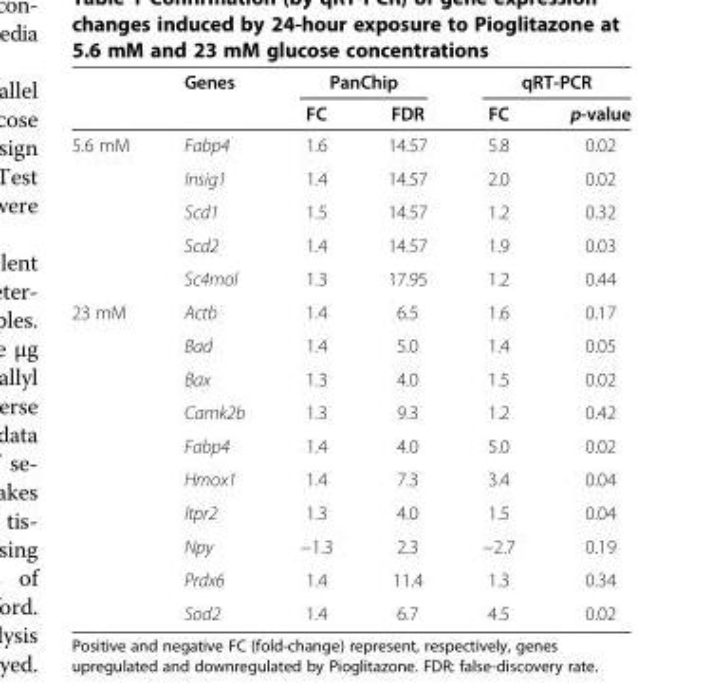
<table><thead><tr><td rowspan="2"></td><td rowspan="2">Genes</td><td colspan="2">PanChip</td><td colspan="2">qRT-PCR</td></tr><tr><td>FC</td><td>FDR</td><td>FC</td><td>p-value</td></tr></thead><tbody><tr><td rowspan="5">5.6 mM</td><td>Fabp4</td><td>1.6</td><td>14.57</td><td>5.8</td><td>0.02</td></tr><tr><td>Insig1</td><td>1.4</td><td>14.57</td><td>2.0</td><td>0.02</td></tr><tr><td>Scd1</td><td>1.5</td><td>14.57</td><td>1.2</td><td>0.32</td></tr><tr><td>Scd2</td><td>1.4</td><td>14.57</td><td>1.9</td><td>0.03</td></tr><tr><td>Sc4mol</td><td>1.3</td><td>17.95</td><td>1.2</td><td>0.44</td></tr><tr><td rowspan="10">23 mM</td><td>Actb</td><td>1.4</td><td>6.5</td><td>1.6</td><td>0.17</td></tr><tr><td>Bad</td><td>1.4</td><td>5.0</td><td>1.4</td><td>0.05</td></tr><tr><td>Bax</td><td>1.3</td><td>4.0</td><td>1.5</td><td>0.02</td></tr><tr><td>Camk2b</td><td>1.3</td><td>9.3</td><td>1.2</td><td>0.42</td></tr><tr><td>Fabp4</td><td>1.4</td><td>4.0</td><td>5.0</td><td>0.02</td></tr><tr><td>Hmox1</td><td>1.4</td><td>7.3</td><td>3.4</td><td>0.04</td></tr><tr><td>ltpr2</td><td>1.3</td><td>4.0</td><td>1.5</td><td>0.04</td></tr><tr><td>Npy</td><td>−1.3</td><td>2.3</td><td>−2.7</td><td>0.19</td></tr><tr><td>Prdx6</td><td>1.4</td><td>11.4</td><td>1.3</td><td>0.34</td></tr><tr><td>Sod2</td><td>1.4</td><td>6.7</td><td>4.5</td><td>0.02</td></tr></tbody></table>